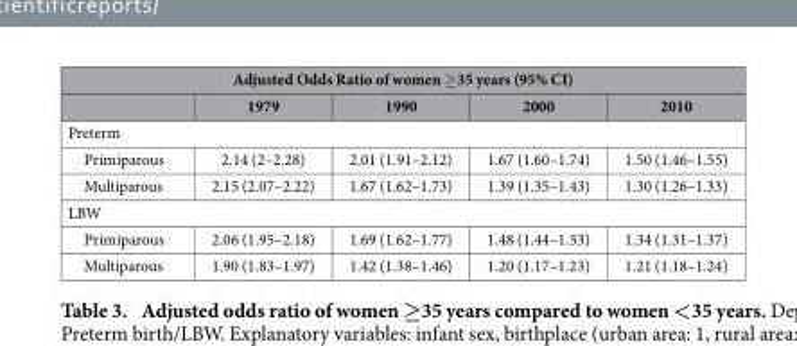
<table><thead><tr><td colspan="5">Adjusted Odds Ratio of women ≥ 35 years (95% CI)</td></tr><tr><td></td><td>1979</td><td>1990</td><td>2000</td><td>2010</td></tr></thead><tbody><tr><td colspan="5">Preterm</td></tr><tr><td>Primiparous</td><td>2.14 (2–2.28)</td><td>2.01 (1.91–2.12)</td><td>1.67 (1.60–1.74)</td><td>1.50 (1.46–1.55)</td></tr><tr><td>Multiparous</td><td>2.15 (2.07–2.22)</td><td>1.67 (1.62–1.73)</td><td>1.39 (1.35–1.43)</td><td>1.30 (1.26–1.33)</td></tr><tr><td colspan="5">LBW</td></tr><tr><td>Primiparous</td><td>2.06 (1.95–2.18)</td><td>1.69 (1.62–1.77)</td><td>1.48 (1.44–1.53)</td><td>1.34 (1.31–1.37)</td></tr><tr><td>Multiparous</td><td>1.90 (1.83–1.97)</td><td>1.42 (1.38–1.46)</td><td>1.20 (1.17–1.23)</td><td>1.21 (1.18–1.24)</td></tr></tbody></table>